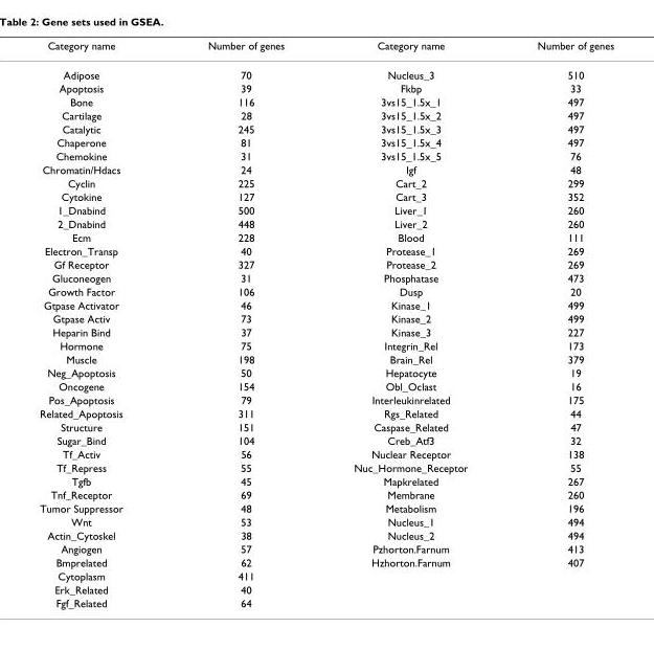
<table><thead><tr><td>Category name</td><td>Number of genes</td><td>Category name</td><td>Number of genes</td></tr></thead><tbody><tr><td>Adipose</td><td>70</td><td>Nucleus_3</td><td>510</td></tr><tr><td>Apoptosis</td><td>39</td><td>Fkbp</td><td>33</td></tr><tr><td>Bone</td><td>116</td><td>3vs15_1.5x_1</td><td>497</td></tr><tr><td>Cartilage</td><td>28</td><td>3vs15_1.5x_2</td><td>497</td></tr><tr><td>Catalytic</td><td>245</td><td>3vs15_1.5x_3</td><td>497</td></tr><tr><td>Chaperone</td><td>81</td><td>3vs15_1.5x_4</td><td>497</td></tr><tr><td>Chemokine</td><td>31</td><td>3vs15_1.5x_5</td><td>76</td></tr><tr><td>Chromatin/Hdacs</td><td>24</td><td>Igf</td><td>48</td></tr><tr><td>Cyclin</td><td>225</td><td>Cart_2</td><td>299</td></tr><tr><td>Cytokine</td><td>127</td><td>Cart_3</td><td>352</td></tr><tr><td>1_Dnabind</td><td>500</td><td>Liver_1</td><td>260</td></tr><tr><td>2_Dnabind</td><td>448</td><td>Liver_2</td><td>260</td></tr><tr><td>Ecm</td><td>228</td><td>Blood</td><td>111</td></tr><tr><td>Electron_Transp</td><td>40</td><td>Protease_1</td><td>269</td></tr><tr><td>Gf Receptor</td><td>327</td><td>Protease_2</td><td>269</td></tr><tr><td>Gluconeogen</td><td>31</td><td>Phosphatase</td><td>473</td></tr><tr><td>Growth Factor</td><td>106</td><td>Dusp</td><td>20</td></tr><tr><td>Gtpase Activator</td><td>46</td><td>Kinase_1</td><td>499</td></tr><tr><td>Gtpase Activ</td><td>73</td><td>Kinase_2</td><td>499</td></tr><tr><td>Heparin Bind</td><td>37</td><td>Kinase_3</td><td>227</td></tr><tr><td>Hormone</td><td>75</td><td>Integrin_Rel</td><td>173</td></tr><tr><td>Muscle</td><td>198</td><td>Brain_Rel</td><td>379</td></tr><tr><td>Neg_Apoptosis</td><td>50</td><td>Hepatocyte</td><td>19</td></tr><tr><td>Oncogene</td><td>154</td><td>Obl_Oclast</td><td>16</td></tr><tr><td>Pos_Apoptosis</td><td>79</td><td>Interleukinrelated</td><td>175</td></tr><tr><td>Related_Apoptosis</td><td>311</td><td>Rgs_Related</td><td>44</td></tr><tr><td>Structure</td><td>151</td><td>Caspase_Related</td><td>47</td></tr><tr><td>Sugar_Bind</td><td>104</td><td>Creb_Atf3</td><td>32</td></tr><tr><td>Tf_Activ</td><td>56</td><td>Nuclear Receptor</td><td>138</td></tr><tr><td>Tf_Repress</td><td>55</td><td>Nuc_Hormone_Receptor</td><td>55</td></tr><tr><td>Tgfb</td><td>45</td><td>Mapkrelated</td><td>267</td></tr><tr><td>Tnf_Receptor</td><td>69</td><td>Membrane</td><td>260</td></tr><tr><td>Tumor Suppressor</td><td>48</td><td>Metabolism</td><td>196</td></tr><tr><td>Wnt</td><td>53</td><td>Nucleus_1</td><td>494</td></tr><tr><td>Actin_Cytoskel</td><td>38</td><td>Nucleus_2</td><td>494</td></tr><tr><td>Angiogen</td><td>57</td><td>Pzhorton.Farnum</td><td>413</td></tr><tr><td>Bmprelated</td><td>62</td><td>Hzhorton.Farnum</td><td>407</td></tr><tr><td>Cytoplasm</td><td>411</td><td></td><td></td></tr><tr><td>Erk_Related</td><td>40</td><td></td><td></td></tr><tr><td>Fgf_Related</td><td>64</td><td></td><td></td></tr></tbody></table>